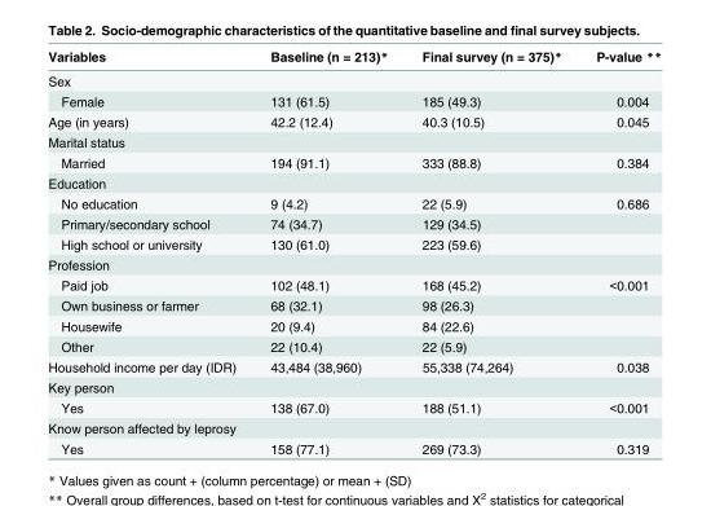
<table><thead><tr><td>Variables</td><td>Baseline (n = 213)*</td><td>Final survey (n = 375)*</td><td>P-value **</td></tr></thead><tbody><tr><td colspan="4">Sex</td></tr><tr><td>Female</td><td>131 (61.5)</td><td>185 (49.3)</td><td>0.004</td></tr><tr><td>Age (in years)</td><td>42.2 (12.4)</td><td>40.3 (10.5)</td><td>0.045</td></tr><tr><td colspan="4">Marital status</td></tr><tr><td>Married</td><td>194 (91.1)</td><td>333 (88.8)</td><td>0.384</td></tr><tr><td colspan="4">Education</td></tr><tr><td>No education</td><td>9 (4.2)</td><td>22 (5.9)</td><td>0.686</td></tr><tr><td>Primary/secondary school</td><td>74 (34.7)</td><td>129 (34.5)</td><td></td></tr><tr><td>High school or university</td><td>130 (61.0)</td><td>223 (59.6)</td><td></td></tr><tr><td colspan="4">Profession</td></tr><tr><td>Paid job</td><td>102 (48.1)</td><td>168 (45.2)</td><td>&lt;0.001</td></tr><tr><td>Own business or farmer</td><td>68 (32.1)</td><td>98 (26.3)</td><td></td></tr><tr><td>Housewife</td><td>20 (9.4)</td><td>84 (22.6)</td><td></td></tr><tr><td>Other</td><td>22 (10.4)</td><td>22 (5.9)</td><td></td></tr><tr><td>Household income per day (IDR)</td><td>43,484 (38,960)</td><td>55,338 (74,264)</td><td>0.038</td></tr><tr><td colspan="4">Key person</td></tr><tr><td>Yes</td><td>138 (67.0)</td><td>188 (51.1)</td><td>&lt;0.001</td></tr><tr><td colspan="4">Know person affected by leprosy</td></tr><tr><td>Yes</td><td>158 (77.1)</td><td>269 (73.3)</td><td>0.319</td></tr></tbody></table>